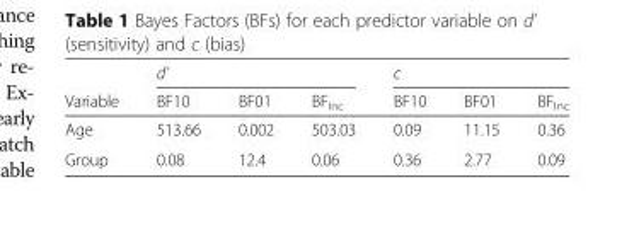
<table><thead><tr><td rowspan="2">Variable</td><td colspan="3">d’</td><td colspan="3">c</td></tr><tr><td>BF10</td><td>BF01</td><td>BF<sub>Inc</sub></td><td>BF10</td><td>BF01</td><td>BF<sub>Inc</sub></td></tr></thead><tbody><tr><td>Age</td><td>513.66</td><td>0.002</td><td>503.03</td><td>0.09</td><td>11.15</td><td>0.36</td></tr><tr><td>Group</td><td>0.08</td><td>12.4</td><td>0.06</td><td>0.36</td><td>2.77</td><td>0.09</td></tr></tbody></table>